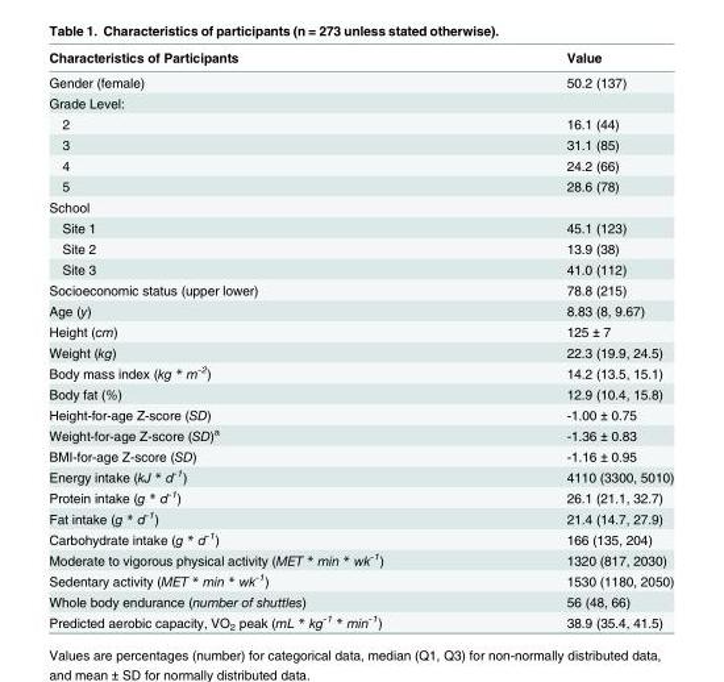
<table><thead><tr><td>Characteristics of Participants</td><td>Value</td></tr></thead><tbody><tr><td>Gender (female)</td><td>50.2 (137)</td></tr><tr><td colspan="2">Grade Level:</td></tr><tr><td>2</td><td>16.1 (44)</td></tr><tr><td>3</td><td>31.1 (85)</td></tr><tr><td>4</td><td>24.2 (66)</td></tr><tr><td>5</td><td>28.6 (78)</td></tr><tr><td colspan="2">School</td></tr><tr><td>Site 1</td><td>45.1 (123)</td></tr><tr><td>Site 2</td><td>13.9 (38)</td></tr><tr><td>Site 3</td><td>41.0 (112)</td></tr><tr><td>Socioeconomic status (upper lower)</td><td>78.8 (215)</td></tr><tr><td>Age (y)</td><td>8.83 (8, 9.67)</td></tr><tr><td>Height (cm)</td><td>125 ± 7</td></tr><tr><td>Weight (kg)</td><td>22.3 (19.9, 24.5)</td></tr><tr><td>Body mass index (kg * m<sup>-2</sup>)</td><td>14.2 (13.5, 15.1)</td></tr><tr><td>Body fat (%)</td><td>12.9 (10.4, 15.8)</td></tr><tr><td>Height-for-age Z-score (SD)</td><td>-1.00 ± 0.75</td></tr><tr><td>Weight-for-age Z-score (SD)<sup>a</sup></td><td>-1.36 ± 0.83</td></tr><tr><td>BMI-for-age Z-score (SD)</td><td>-1.16 ± 0.95</td></tr><tr><td>Energy intake (kJ * d<sup>-1</sup>)</td><td>4110 (3300, 5010)</td></tr><tr><td>Protein intake (g * d<sup>-1</sup>)</td><td>26.1 (21.1, 32.7)</td></tr><tr><td>Fat intake (g * d<sup>-1</sup>)</td><td>21.4 (14.7, 27.9)</td></tr><tr><td>Carbohydrate intake (g * d<sup>-1</sup>)</td><td>166 (135, 204)</td></tr><tr><td>Moderate to vigorous physical activity (MET * min * wk<sup>-1</sup>)</td><td>1320 (817, 2030)</td></tr><tr><td>Sedentary activity (MET * min * wk<sup>-1</sup>)</td><td>1530 (1180, 2050)</td></tr><tr><td>Whole body endurance (number of shuttles)</td><td>56 (48, 66)</td></tr><tr><td>Predicted aerobic capacity, VO<sub>2</sub> peak (mL * kg<sup>-1</sup> * min<sup>-1</sup>)</td><td>38.9 (35.4, 41.5)</td></tr></tbody></table>